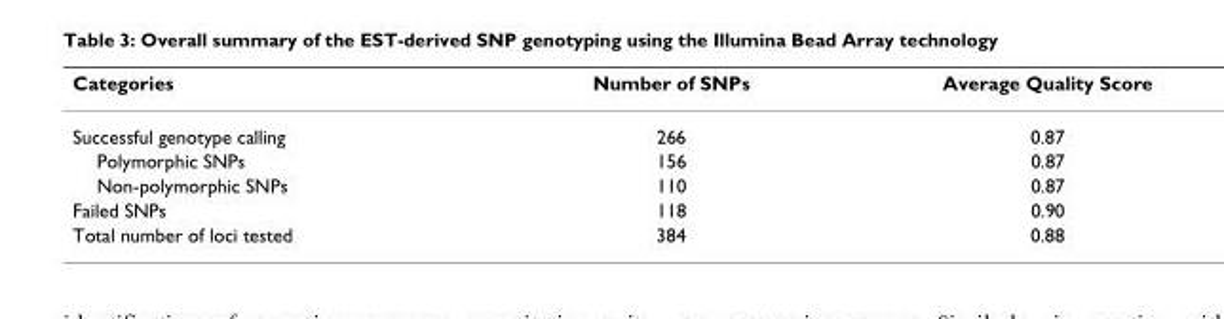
<table><thead><tr><td>Categories</td><td>Number of SNPs</td><td>Average Quality Score</td></tr></thead><tbody><tr><td>Successful genotype calling</td><td>266</td><td>0.87</td></tr><tr><td>Polymorphic SNPs</td><td>156</td><td>0.87</td></tr><tr><td>Non-polymorphic SNPs</td><td>110</td><td>0.87</td></tr><tr><td>Failed SNPs</td><td>118</td><td>0.90</td></tr><tr><td>Total number of loci tested</td><td>384</td><td>0.88</td></tr></tbody></table>